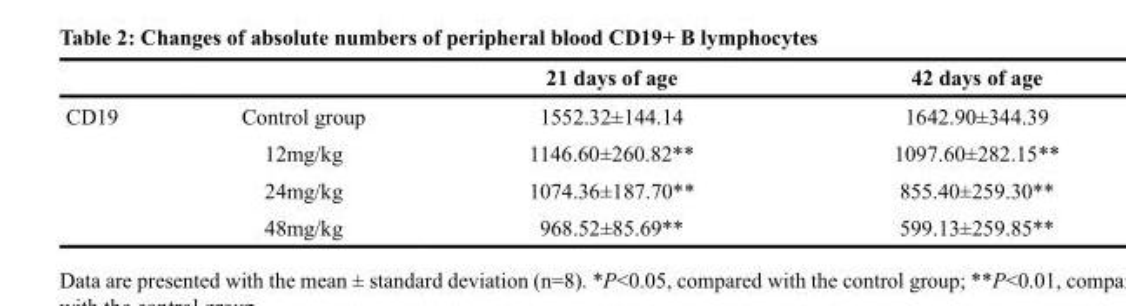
<table><thead><tr><td></td><td></td><td>21 days of age</td><td>42 days of age</td></tr></thead><tbody><tr><td rowspan="4">CD19</td><td>Control group</td><td>1552.32±144.14</td><td>1642.90±344.39</td></tr><tr><td>12mg/kg</td><td>1146.60±260.82**</td><td>1097.60±282.15**</td></tr><tr><td>24mg/kg</td><td>1074.36±187.70**</td><td>855.40±259.30**</td></tr><tr><td>48mg/kg</td><td>968.52±85.69**</td><td>599.13±259.85**</td></tr></tbody></table>